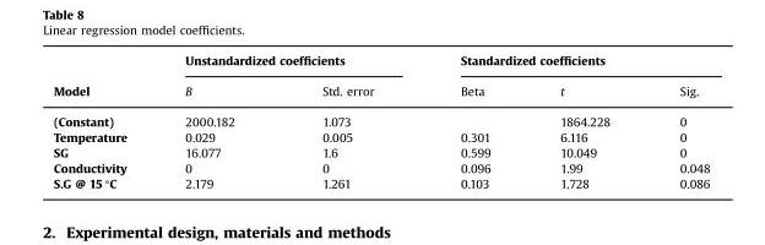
<table><thead><tr><td rowspan="2">Model</td><td colspan="2">Unstandardized coefficients</td><td colspan="3">Standardized coefficients</td></tr><tr><td>B</td><td>Std. error</td><td>Beta</td><td>t</td><td>Sig.</td></tr></thead><tbody><tr><td>(Constant)</td><td>2000.182</td><td>1.073</td><td></td><td>1864.228</td><td>0</td></tr><tr><td>Temperature</td><td>0.029</td><td>0.005</td><td>0.301</td><td>6.116</td><td>0</td></tr><tr><td>SG</td><td>16.077</td><td>1.6</td><td>0.599</td><td>10.049</td><td>0</td></tr><tr><td>Conductivity</td><td>0</td><td>0</td><td>0.096</td><td>1.99</td><td>0.048</td></tr><tr><td>S.G @ 15 °C</td><td>2.179</td><td>1.261</td><td>0.103</td><td>1.728</td><td>0.086</td></tr></tbody></table>